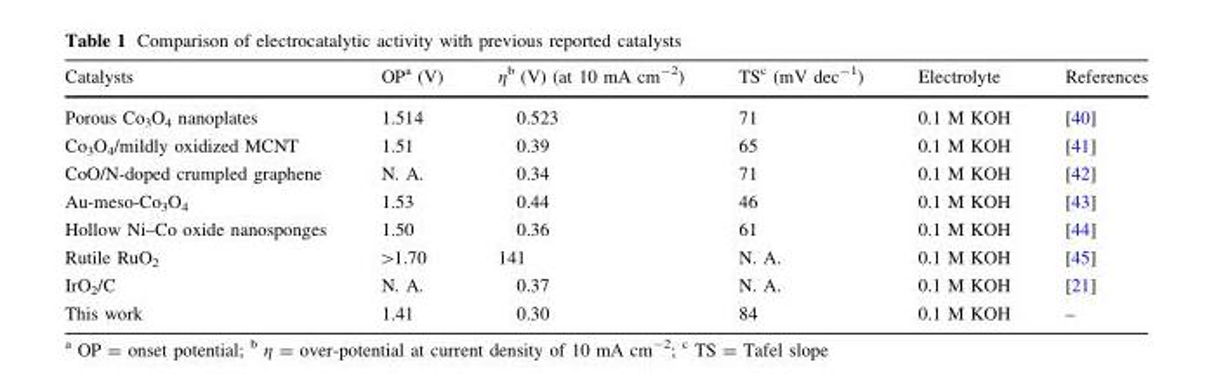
<table><thead><tr><td>Catalysts</td><td>OP<sup>a</sup> (V)</td><td>η<sup>b</sup> (V) (at 10 mA cm<sup>-2</sup>)</td><td>TS<sup>c</sup> (mV dec<sup>-1</sup>)</td><td>Electrolyte</td><td>References</td></tr></thead><tbody><tr><td>Porous Co<sub>3</sub>O<sub>4</sub> nanoplates</td><td>1.514</td><td>0.523</td><td>71</td><td>0.1 M KOH</td><td>[40]</td></tr><tr><td>Co<sub>3</sub>O<sub>4</sub>/mildly oxidized MCNT</td><td>1.51</td><td>0.39</td><td>65</td><td>0.1 M KOH</td><td>[41]</td></tr><tr><td>CoO/N-doped crumpled graphene</td><td>N. A.</td><td>0.34</td><td>71</td><td>0.1 M KOH</td><td>[42]</td></tr><tr><td>Au-meso-Co<sub>3</sub>O<sub>4</sub></td><td>1.53</td><td>0.44</td><td>46</td><td>0.1 M KOH</td><td>[43]</td></tr><tr><td>Hollow Ni–Co oxide nanosponges</td><td>1.50</td><td>0.36</td><td>61</td><td>0.1 M KOH</td><td>[44]</td></tr><tr><td>Rutile RuO<sub>2</sub></td><td>&gt;1.70</td><td>141</td><td>N. A.</td><td>0.1 M KOH</td><td>[45]</td></tr><tr><td>IrO<sub>2</sub>/C</td><td>N. A.</td><td>0.37</td><td>N. A.</td><td>0.1 M KOH</td><td>[21]</td></tr><tr><td>This work</td><td>1.41</td><td>0.30</td><td>84</td><td>0.1 M KOH</td><td>–</td></tr></tbody></table>